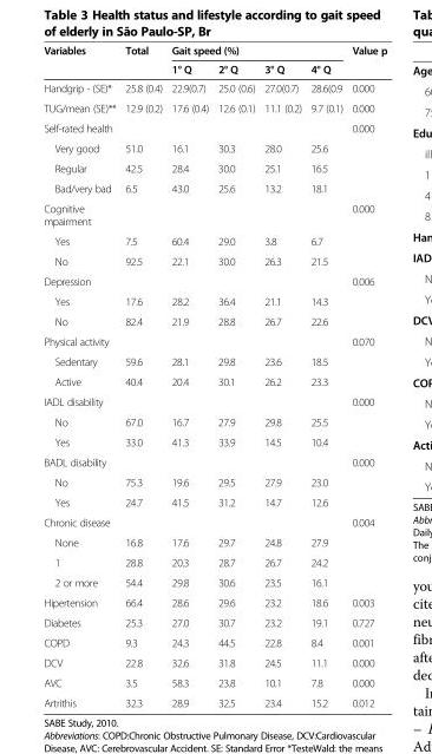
<table><thead><tr><td rowspan="2">Variables</td><td rowspan="2">Total</td><td colspan="4">Gait speed (%)</td><td rowspan="2">Value p</td></tr><tr><td>1° Q</td><td>2° Q</td><td>3° Q</td><td>4° Q</td></tr></thead><tbody><tr><td>Handgrip - (SE)*</td><td>25.8 (0.4)</td><td>22.9(0.7)</td><td>25.0 (0.6)</td><td>27.0(0.7)</td><td>28.6(0.9</td><td>0.000</td></tr><tr><td>TUG/mean (SE)**</td><td>12.9 (0.2)</td><td>17.6 (0.4)</td><td>12.6 (0.1)</td><td>11.1 (0.2)</td><td>9.7 (0.1)</td><td>0.000</td></tr><tr><td>Self-rated health</td><td></td><td></td><td></td><td></td><td></td><td>0.000</td></tr><tr><td>Very good</td><td>51.0</td><td>16.1</td><td>30.3</td><td>28.0</td><td>25.6</td><td></td></tr><tr><td>Regular</td><td>42.5</td><td>28.4</td><td>30.0</td><td>25.1</td><td>16.5</td><td></td></tr><tr><td>Bad/very bad</td><td>6.5</td><td>43.0</td><td>25.6</td><td>13.2</td><td>18.1</td><td></td></tr><tr><td>Cognitive mpairment</td><td></td><td></td><td></td><td></td><td></td><td>0.000</td></tr><tr><td>Yes</td><td>7.5</td><td>60.4</td><td>29.0</td><td>3.8</td><td>6.7</td><td></td></tr><tr><td>No</td><td>92.5</td><td>22.1</td><td>30.0</td><td>26.3</td><td>21.5</td><td></td></tr><tr><td>Depression</td><td></td><td></td><td></td><td></td><td></td><td>0.006</td></tr><tr><td>Yes</td><td>17.6</td><td>28.2</td><td>36.4</td><td>21.1</td><td>14.3</td><td></td></tr><tr><td>No</td><td>82.4</td><td>21.9</td><td>28.8</td><td>26.7</td><td>22.6</td><td></td></tr><tr><td>Physical activity</td><td></td><td></td><td></td><td></td><td></td><td>0.070</td></tr><tr><td>Sedentary</td><td>59.6</td><td>28.1</td><td>29.8</td><td>23.6</td><td>18.5</td><td></td></tr><tr><td>Active</td><td>40.4</td><td>20.4</td><td>30.1</td><td>26.2</td><td>23.3</td><td></td></tr><tr><td>IADL disability</td><td></td><td></td><td></td><td></td><td></td><td>0.000</td></tr><tr><td>No</td><td>67.0</td><td>16.7</td><td>27.9</td><td>29.8</td><td>25.5</td><td></td></tr><tr><td>Yes</td><td>33.0</td><td>41.3</td><td>33.9</td><td>14.5</td><td>10.4</td><td></td></tr><tr><td>BADL disability</td><td></td><td></td><td></td><td></td><td></td><td>0.000</td></tr><tr><td>No</td><td>75.3</td><td>19.6</td><td>29.5</td><td>27.9</td><td>23.0</td><td></td></tr><tr><td>Yes</td><td>24.7</td><td>41.5</td><td>31.2</td><td>14.7</td><td>12.6</td><td></td></tr><tr><td>Chronic disease</td><td></td><td></td><td></td><td></td><td></td><td>0.004</td></tr><tr><td>None</td><td>16.8</td><td>17.6</td><td>29.7</td><td>24.8</td><td>27.9</td><td></td></tr><tr><td>1</td><td>28.8</td><td>20.3</td><td>28.7</td><td>26.7</td><td>24.2</td><td></td></tr><tr><td>2 or more</td><td>54.4</td><td>29.8</td><td>30.6</td><td>23.5</td><td>16.1</td><td></td></tr><tr><td>Hipertension</td><td>66.4</td><td>28.6</td><td>29.6</td><td>23.2</td><td>18.6</td><td>0.003</td></tr><tr><td>Diabetes</td><td>25.3</td><td>27.0</td><td>30.7</td><td>23.2</td><td>19.1</td><td>0.727</td></tr><tr><td>COPD</td><td>9.3</td><td>24.3</td><td>44.5</td><td>22.8</td><td>8.4</td><td>0.001</td></tr><tr><td>DCV</td><td>22.8</td><td>32.6</td><td>31.8</td><td>24.5</td><td>11.1</td><td>0.000</td></tr><tr><td>AVC</td><td>3.5</td><td>58.3</td><td>23.8</td><td>10.1</td><td>7.8</td><td>0.000</td></tr><tr><td>Artrithis</td><td>32.3</td><td>28.9</td><td>32.5</td><td>23.4</td><td>15.2</td><td>0.012</td></tr></tbody></table>